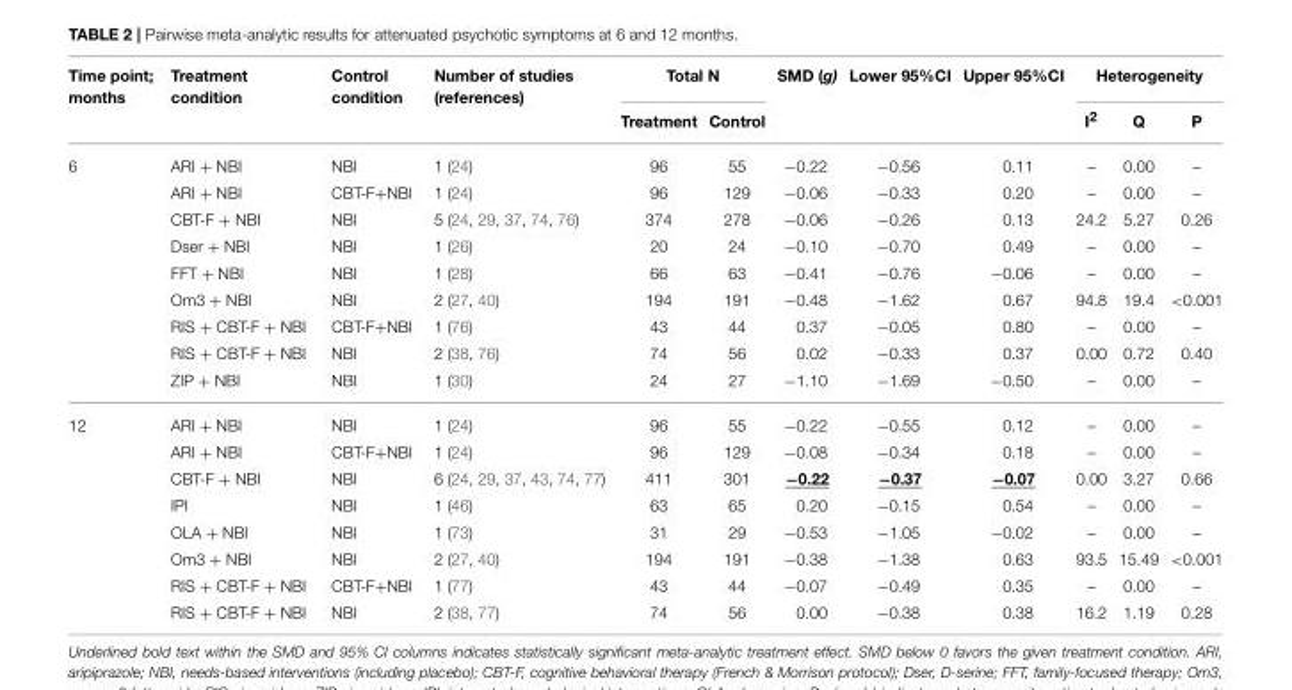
<table><thead><tr><td rowspan="2">Time point; months</td><td rowspan="2">Treatment condition</td><td rowspan="2">Control condition</td><td rowspan="2">Number of studies (references)</td><td colspan="2">Total N</td><td rowspan="2">SMD (g)</td><td rowspan="2">Lower 95%CI</td><td rowspan="2">Upper 95%CI</td><td colspan="3">Heterogeneity</td></tr><tr><td>Treatment</td><td>Control</td><td>I<sup>2</sup></td><td>Q</td><td>P</td></tr></thead><tbody><tr><td rowspan="9">6</td><td>ARI + NBI</td><td>NBI</td><td>1 (24)</td><td>96</td><td>55</td><td>−0.22</td><td>−0.56</td><td>0.11</td><td>–</td><td>0.00</td><td>–</td></tr><tr><td>ARI + NBI</td><td>CBT-F+NBI</td><td>1 (24)</td><td>96</td><td>129</td><td>−0.06</td><td>−0.33</td><td>0.20</td><td>–</td><td>0.00</td><td>–</td></tr><tr><td>CBT-F + NBI</td><td>NBI</td><td>5 (24, 29, 37, 74, 76)</td><td>374</td><td>278</td><td>−0.06</td><td>−0.26</td><td>0.13</td><td>24.2</td><td>5.27</td><td>0.26</td></tr><tr><td>Dser + NBI</td><td>NBI</td><td>1 (26)</td><td>20</td><td>24</td><td>−0.10</td><td>−0.70</td><td>0.49</td><td>–</td><td>0.00</td><td>–</td></tr><tr><td>FFT + NBI</td><td>NBI</td><td>1 (28)</td><td>66</td><td>63</td><td>−0.41</td><td>−0.76</td><td>−0.06</td><td>–</td><td>0.00</td><td>–</td></tr><tr><td>Om3 + NBI</td><td>NBI</td><td>2 (27, 40)</td><td>194</td><td>191</td><td>−0.48</td><td>−1.62</td><td>0.67</td><td>94.8</td><td>19.4</td><td>&lt;0.001</td></tr><tr><td>RIS + CBT-F + NBI</td><td>CBT-F+NBI</td><td>1 (76)</td><td>43</td><td>44</td><td>0.37</td><td>−0.05</td><td>0.80</td><td>–</td><td>0.00</td><td>–</td></tr><tr><td>RIS + CBT-F + NBI</td><td>NBI</td><td>2 (38, 76)</td><td>74</td><td>56</td><td>0.02</td><td>−0.33</td><td>0.37</td><td>0.00</td><td>0.72</td><td>0.40</td></tr><tr><td>ZIP + NBI</td><td>NBI</td><td>1 (30)</td><td>24</td><td>27</td><td>−1.10</td><td>−1.69</td><td>−0.50</td><td>–</td><td>0.00</td><td>–</td></tr><tr><td rowspan="8">12</td><td>ARI + NBI</td><td>NBI</td><td>1 (24)</td><td>96</td><td>55</td><td>−0.22</td><td>−0.55</td><td>0.12</td><td>–</td><td>0.00</td><td>–</td></tr><tr><td>ARI + NBI</td><td>CBT-F+NBI</td><td>1 (24)</td><td>96</td><td>129</td><td>−0.08</td><td>−0.34</td><td>0.18</td><td>–</td><td>0.00</td><td>–</td></tr><tr><td>CBT-F + NBI</td><td>NBI</td><td>6 (24, 29, 37, 43, 74, 77)</td><td>411</td><td>301</td><td>−0.22</td><td>−0.37</td><td>−0.07</td><td>0.00</td><td>3.27</td><td>0.66</td></tr><tr><td>IPI</td><td>NBI</td><td>1 (46)</td><td>63</td><td>65</td><td>0.20</td><td>−0.15</td><td>0.54</td><td>–</td><td>0.00</td><td>–</td></tr><tr><td>OLA + NBI</td><td>NBI</td><td>1 (73)</td><td>31</td><td>29</td><td>−0.53</td><td>−1.05</td><td>−0.02</td><td>–</td><td>0.00</td><td>–</td></tr><tr><td>Om3 + NBI</td><td>NBI</td><td>2 (27, 40)</td><td>194</td><td>191</td><td>−0.38</td><td>−1.38</td><td>0.63</td><td>93.5</td><td>15.49</td><td>&lt;0.001</td></tr><tr><td>RIS + CBT-F + NBI</td><td>CBT-F+NBI</td><td>1 (77)</td><td>43</td><td>44</td><td>−0.07</td><td>−0.49</td><td>0.35</td><td>–</td><td>0.00</td><td>–</td></tr><tr><td>RIS + CBT-F + NBI</td><td>NBI</td><td>2 (38, 77)</td><td>74</td><td>56</td><td>0.00</td><td>−0.38</td><td>0.38</td><td>16.2</td><td>1.19</td><td>0.28</td></tr></tbody></table>